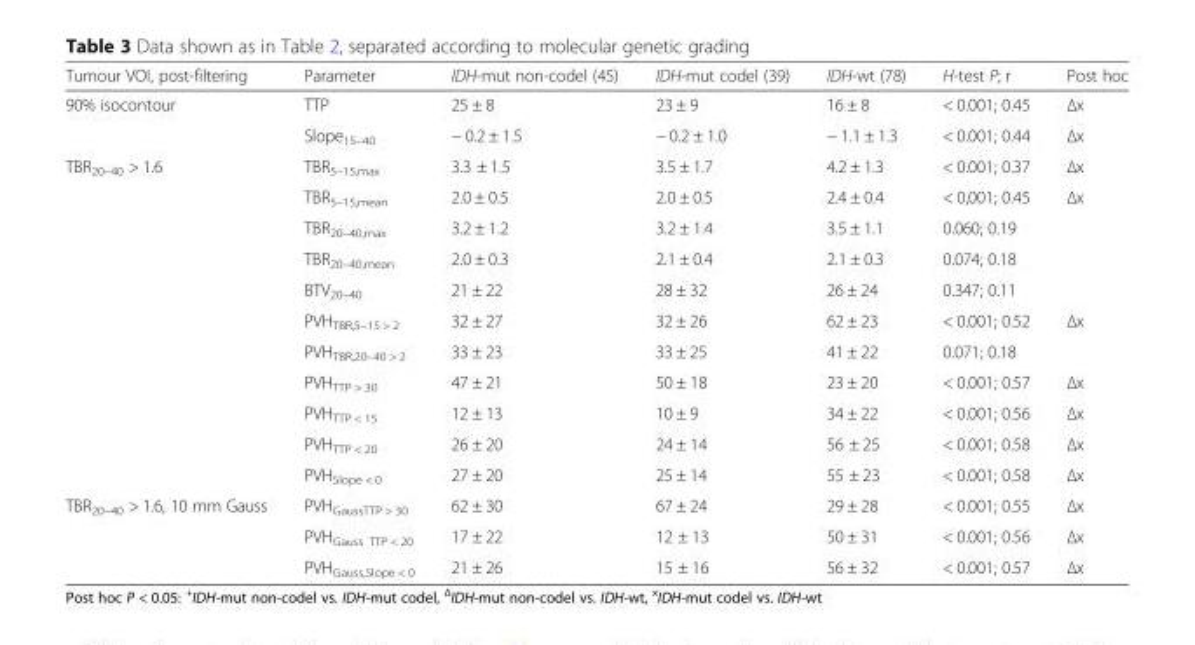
<table><thead><tr><td>Tumour VOI, post-filtering</td><td>Parameter</td><td>IDH-mut non-codel (45)</td><td>IDH-mut codel (39)</td><td>IDH-wt (78)</td><td>H-test P; r</td><td>Post hoc</td></tr></thead><tbody><tr><td rowspan="2">90% isocontour</td><td>TTP</td><td>25 ± 8</td><td>23 ± 9</td><td>16 ± 8</td><td>&lt; 0.001; 0.45</td><td>Δx</td></tr><tr><td>Slope<sub>15–40</sub></td><td>− 0.2 ± 1.5</td><td>− 0.2 ± 1.0</td><td>− 1.1 ± 1.3</td><td>&lt; 0.001; 0.44</td><td>Δx</td></tr><tr><td rowspan="11">TBR<sub>20–40</sub> &gt; 1.6</td><td>TBR<sub>5–15,max</sub></td><td>3.3 ± 1.5</td><td>3.5 ± 1.7</td><td>4.2 ± 1.3</td><td>&lt; 0.001; 0.37</td><td>Δx</td></tr><tr><td>TBR<sub>5–15,mean</sub></td><td>2.0 ± 0.5</td><td>2.0 ± 0.5</td><td>2.4 ± 0.4</td><td>&lt; 0,001; 0.45</td><td>Δx</td></tr><tr><td>TBR<sub>20–40,max</sub></td><td>3.2 ± 1.2</td><td>3.2 ± 1.4</td><td>3.5 ± 1.1</td><td>0.060; 0.19</td><td></td></tr><tr><td>TBR<sub>20–40,mean</sub></td><td>2.0 ± 0.3</td><td>2.1 ± 0.4</td><td>2.1 ± 0.3</td><td>0.074; 0.18</td><td></td></tr><tr><td>BTV<sub>20–40</sub></td><td>21 ± 22</td><td>28 ± 32</td><td>26 ± 24</td><td>0.347; 0.11</td><td></td></tr><tr><td>PVH<sub>TBR,5–15 &gt; 2</sub></td><td>32 ± 27</td><td>32 ± 26</td><td>62 ± 23</td><td>&lt; 0.001; 0.52</td><td>Δx</td></tr><tr><td>PVH<sub>TBR,20–40 &gt; 2</sub></td><td>33 ± 23</td><td>33 ± 25</td><td>41 ± 22</td><td>0.071; 0.18</td><td></td></tr><tr><td>PVH<sub>TTP &gt; 30</sub></td><td>47 ± 21</td><td>50 ± 18</td><td>23 ± 20</td><td>&lt; 0.001; 0.57</td><td>Δx</td></tr><tr><td>PVH<sub>TTP &lt; 15</sub></td><td>12 ± 13</td><td>10 ± 9</td><td>34 ± 22</td><td>&lt; 0.001; 0.56</td><td>Δx</td></tr><tr><td>PVH<sub>TTP &lt; 20</sub></td><td>26 ± 20</td><td>24 ± 14</td><td>56 ± 25</td><td>&lt; 0.001; 0.58</td><td>Δx</td></tr><tr><td>PVH<sub>Slope &lt; 0</sub></td><td>27 ± 20</td><td>25 ± 14</td><td>55 ± 23</td><td>&lt; 0.001; 0.58</td><td>Δx</td></tr><tr><td rowspan="3">TBR<sub>20–40</sub> &gt; 1.6, 10 mm Gauss</td><td>PVH<sub>GaussTTP &gt; 30</sub></td><td>62 ± 30</td><td>67 ± 24</td><td>29 ± 28</td><td>&lt; 0.001; 0.55</td><td>Δx</td></tr><tr><td>PVH<sub>Gauss TTP &lt; 20</sub></td><td>17 ± 22</td><td>12 ± 13</td><td>50 ± 31</td><td>&lt; 0.001; 0.56</td><td>Δx</td></tr><tr><td>PVH<sub>Gauss,Slope &lt; 0</sub></td><td>21 ± 26</td><td>15 ± 16</td><td>56 ± 32</td><td>&lt; 0.001; 0.57</td><td>Δx</td></tr></tbody></table>